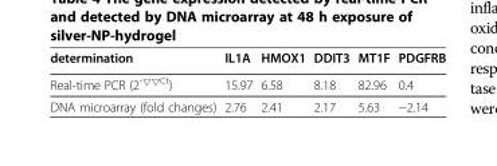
<table><thead><tr><td>determination</td><td>IL1A</td><td>HMOX1</td><td>DDIT3</td><td>MT1F</td><td>PDGFRB</td></tr></thead><tbody><tr><td>Real-time PCR (2<sup>-△△Ct</sup>)</td><td>15.97</td><td>6.58</td><td>8.18</td><td>82.96</td><td>0.4</td></tr><tr><td>DNA microarray (fold changes)</td><td>2.76</td><td>2.41</td><td>2.17</td><td>5.63</td><td>−2.14</td></tr></tbody></table>